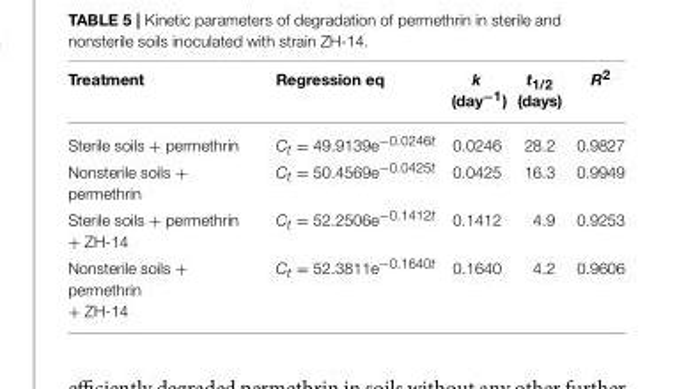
<table><thead><tr><td>Treatment</td><td>Regression eq</td><td>k (day<sup>−1</sup>)</td><td>t<sub>1/2</sub> (days)</td><td>R<sup>2</sup></td></tr></thead><tbody><tr><td>Sterile soils + permethrin</td><td>Ct = 49.9139e−0.0246t</td><td>0.0246</td><td>28.2</td><td>0.9827</td></tr><tr><td>Nonsterile soils + permethrin</td><td>Ct = 50.4569e−0.0425t</td><td>0.0425</td><td>16.3</td><td>0.9949</td></tr><tr><td>Sterile soils + permethrin + ZH-14</td><td>Ct = 52.2506e−0.1412t</td><td>0.1412</td><td>4.9</td><td>0.9253</td></tr><tr><td>Nonsterile soils + permethrin + ZH-14</td><td>Ct = 52.3811e−0.1640t</td><td>0.1640</td><td>4.2</td><td>0.9606</td></tr></tbody></table>